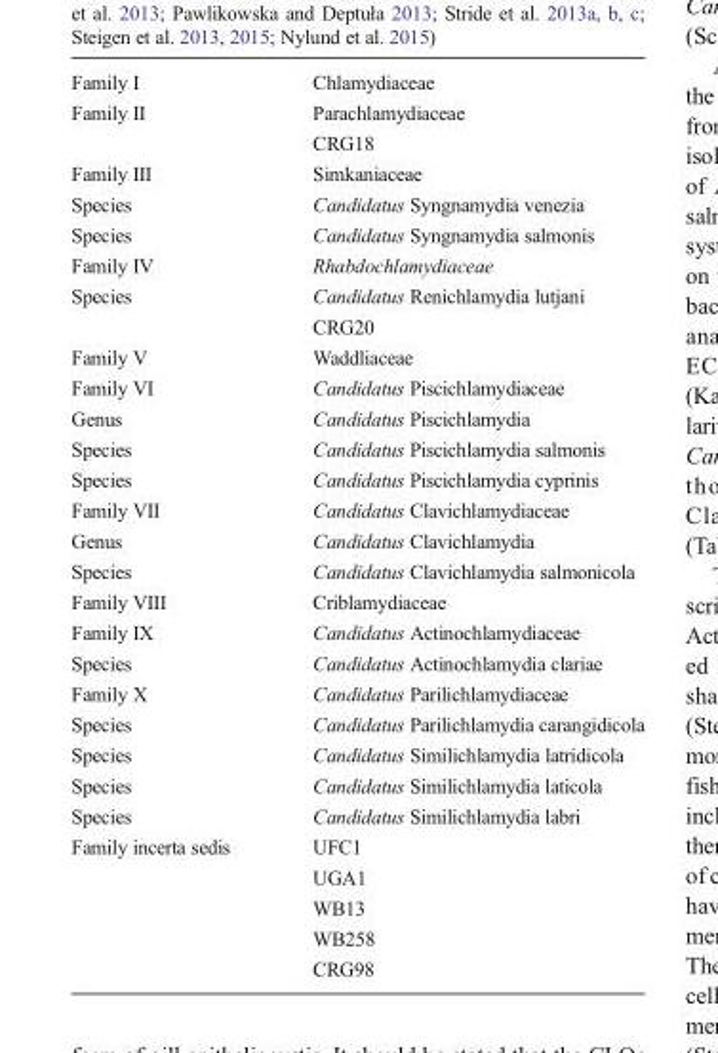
<table><tbody><tr><td>Family I</td><td>Chlamydiaceae</td></tr><tr><td rowspan="2">Family II</td><td>Parachlamydiaceae</td></tr><tr><td>CRG18</td></tr><tr><td>Family III</td><td>Simkaniaceae</td></tr><tr><td>Species</td><td>Candidatus Syngnamydia venezia</td></tr><tr><td>Species</td><td>Candidatus Syngnamydia salmonis</td></tr><tr><td>Family IV</td><td>Rhabdochlamydiaceae</td></tr><tr><td rowspan="2">Species</td><td>Candidatus Renichlamydia lutjani</td></tr><tr><td>CRG20</td></tr><tr><td>Family V</td><td>Waddliaceae</td></tr><tr><td>Family VI</td><td>Candidatus Piscichlamydiaceae</td></tr><tr><td>Genus</td><td>Candidatus Piscichlamydia</td></tr><tr><td>Species</td><td>Candidatus Piscichlamydia salmonis</td></tr><tr><td>Species</td><td>Candidatus Piscichlamydia cyprinis</td></tr><tr><td>Family VII</td><td>Candidatus Clavichlamydiaceae</td></tr><tr><td>Genus</td><td>Candidatus Clavichlamydia</td></tr><tr><td>Species</td><td>Candidatus Clavichlamydia salmonicola</td></tr><tr><td>Family VIII</td><td>Criblamydiaceae</td></tr><tr><td>Family IX</td><td>Candidatus Actinochlamydiaceae</td></tr><tr><td>Species</td><td>Candidatus Actinochlamydia clariae</td></tr><tr><td>Family X</td><td>Candidatus Parilichlamydiaceae</td></tr><tr><td>Species</td><td>Candidatus Parilichlamydia carangidicola</td></tr><tr><td>Species</td><td>Candidatus Similichlamydia latridicola</td></tr><tr><td>Species</td><td>Candidatus Similichlamydia laticola</td></tr><tr><td>Species</td><td>Candidatus Similichlamydia labri</td></tr><tr><td rowspan="5">Family incerta sedis</td><td>UFC1</td></tr><tr><td>UGA1</td></tr><tr><td>WB13</td></tr><tr><td>WB258</td></tr><tr><td>CRG98</td></tr></tbody></table>